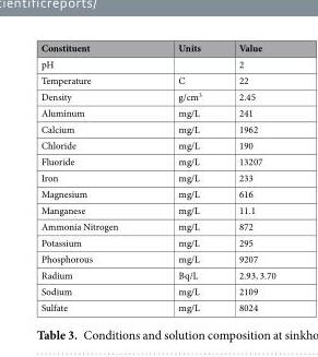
<table><thead><tr><td>Constituent</td><td>Units</td><td>Value</td></tr></thead><tbody><tr><td>pH</td><td></td><td>2</td></tr><tr><td>Temperature</td><td>C</td><td>22</td></tr><tr><td>Density</td><td>g/cm<sup>3</sup></td><td>2.45</td></tr><tr><td>Aluminum</td><td>mg/L</td><td>241</td></tr><tr><td>Calcium</td><td>mg/L</td><td>1962</td></tr><tr><td>Chloride</td><td>mg/L</td><td>190</td></tr><tr><td>Fluoride</td><td>mg/L</td><td>13207</td></tr><tr><td>Iron</td><td>mg/L</td><td>233</td></tr><tr><td>Magnesium</td><td>mg/L</td><td>616</td></tr><tr><td>Manganese</td><td>mg/L</td><td>11.1</td></tr><tr><td>Ammonia Nitrogen</td><td>mg/L</td><td>872</td></tr><tr><td>Potassium</td><td>mg/L</td><td>295</td></tr><tr><td>Phosphorous</td><td>mg/L</td><td>9207</td></tr><tr><td>Radium</td><td>Bq/L</td><td>2.93, 3.70</td></tr><tr><td>Sodium</td><td>mg/L</td><td>2109</td></tr><tr><td>Sulfate</td><td>mg/L</td><td>8024</td></tr></tbody></table>